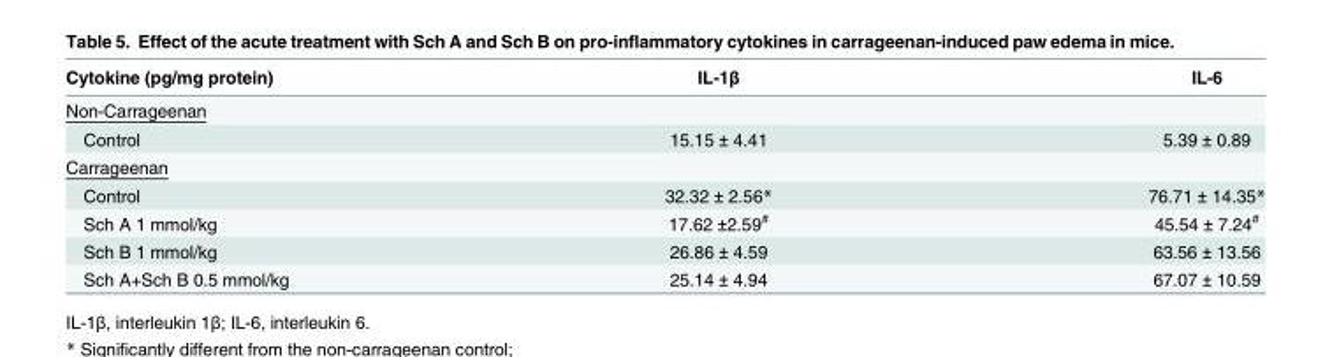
<table><thead><tr><td>Cytokine (pg/mg protein)</td><td>IL-1β</td><td>IL-6</td></tr></thead><tbody><tr><td colspan="3">Non-Carrageenan</td></tr><tr><td>Control</td><td>15.15 ± 4.41</td><td>5.39 ± 0.89</td></tr><tr><td colspan="3">Carrageenan</td></tr><tr><td>Control</td><td>32.32 ± 2.56*</td><td>76.71 ± 14.35*</td></tr><tr><td>Sch A 1 mmol/kg</td><td>17.62 ±2.59<sup>#</sup></td><td>45.54 ± 7.24<sup>#</sup></td></tr><tr><td>Sch B 1 mmol/kg</td><td>26.86 ± 4.59</td><td>63.56 ± 13.56</td></tr><tr><td>Sch A+Sch B 0.5 mmol/kg</td><td>25.14 ± 4.94</td><td>67.07 ± 10.59</td></tr></tbody></table>